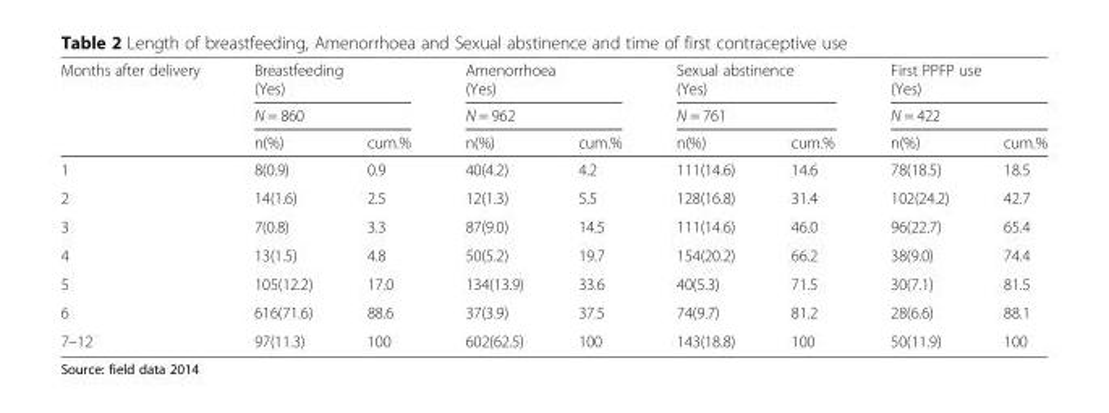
<table><thead><tr><td rowspan="3">Months after delivery</td><td rowspan="2" colspan="2">Breastfeeding (Yes) N = 860</td><td rowspan="2" colspan="2">Amenorrhoea (Yes) N = 962</td><td rowspan="2" colspan="2">Sexual abstinence (Yes) N = 761</td><td rowspan="2" colspan="2">First PPFP use (Yes) N = 422</td></tr><tr></tr><tr><td>n(%)</td><td>cum.%</td><td>n(%)</td><td>cum.%</td><td>n(%)</td><td>cum.%</td><td>n(%)</td><td>cum.%</td></tr></thead><tbody><tr><td>1</td><td>8(0.9)</td><td>0.9</td><td>40(4.2)</td><td>4.2</td><td>111(14.6)</td><td>14.6</td><td>78(18.5)</td><td>18.5</td></tr><tr><td>2</td><td>14(1.6)</td><td>2.5</td><td>12(1.3)</td><td>5.5</td><td>128(16.8)</td><td>31.4</td><td>102(24.2)</td><td>42.7</td></tr><tr><td>3</td><td>7(0.8)</td><td>3.3</td><td>87(9.0)</td><td>14.5</td><td>111(14.6)</td><td>46.0</td><td>96(22.7)</td><td>65.4</td></tr><tr><td>4</td><td>13(1.5)</td><td>4.8</td><td>50(5.2)</td><td>19.7</td><td>154(20.2)</td><td>66.2</td><td>38(9.0)</td><td>74.4</td></tr><tr><td>5</td><td>105(12.2)</td><td>17.0</td><td>134(13.9)</td><td>33.6</td><td>40(5.3)</td><td>71.5</td><td>30(7.1)</td><td>81.5</td></tr><tr><td>6</td><td>616(71.6)</td><td>88.6</td><td>37(3.9)</td><td>37.5</td><td>74(9.7)</td><td>81.2</td><td>28(6.6)</td><td>88.1</td></tr><tr><td>7–12</td><td>97(11.3)</td><td>100</td><td>602(62.5)</td><td>100</td><td>143(18.8)</td><td>100</td><td>50(11.9)</td><td>100</td></tr></tbody></table>